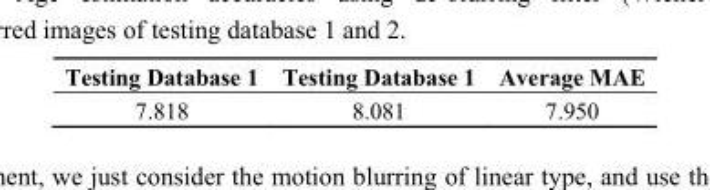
<table><thead><tr><td>Testing Database 1</td><td>Testing Database 1</td><td>Average MAE</td></tr></thead><tbody><tr><td>7.818</td><td>8.081</td><td>7.950</td></tr></tbody></table>